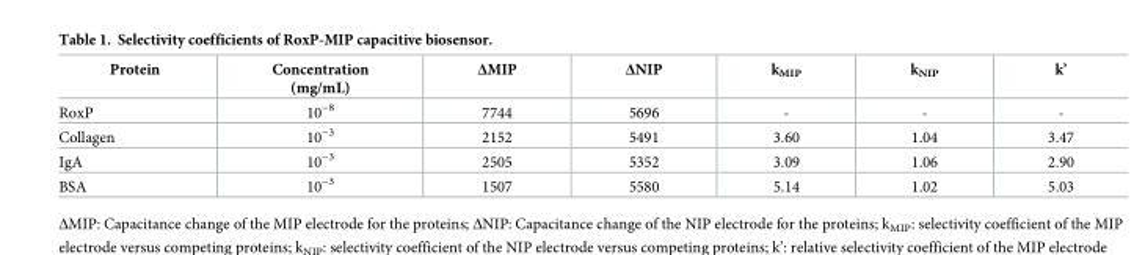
<table><thead><tr><td>Protein</td><td>Concentration (mg/mL)</td><td>ΔMIP</td><td>ΔNIP</td><td>k<sub>MIP</sub></td><td>k<sub>NIP</sub></td><td>k’</td></tr></thead><tbody><tr><td>RoxP</td><td>10<sup>−8</sup></td><td>7744</td><td>5696</td><td>-</td><td>-</td><td>-</td></tr><tr><td>Collagen</td><td>10<sup>−3</sup></td><td>2152</td><td>5491</td><td>3.60</td><td>1.04</td><td>3.47</td></tr><tr><td>IgA</td><td>10<sup>−3</sup></td><td>2505</td><td>5352</td><td>3.09</td><td>1.06</td><td>2.90</td></tr><tr><td>BSA</td><td>10<sup>−3</sup></td><td>1507</td><td>5580</td><td>5.14</td><td>1.02</td><td>5.03</td></tr></tbody></table>